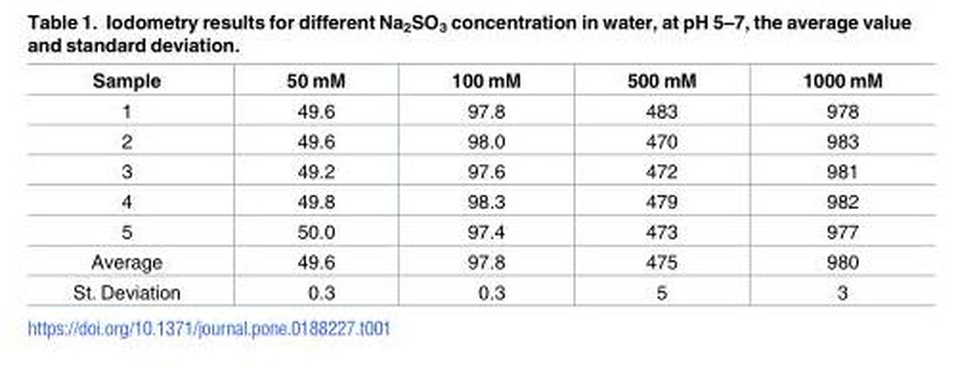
<table><thead><tr><td>Sample</td><td>50 mM</td><td>100 mM</td><td>500 mM</td><td>1000 mM</td></tr></thead><tbody><tr><td>1</td><td>49.6</td><td>97.8</td><td>483</td><td>978</td></tr><tr><td>2</td><td>49.6</td><td>98.0</td><td>470</td><td>983</td></tr><tr><td>3</td><td>49.2</td><td>97.6</td><td>472</td><td>981</td></tr><tr><td>4</td><td>49.8</td><td>98.3</td><td>479</td><td>982</td></tr><tr><td>5</td><td>50.0</td><td>97.4</td><td>473</td><td>977</td></tr><tr><td>Average</td><td>49.6</td><td>97.8</td><td>475</td><td>980</td></tr><tr><td>St. Deviation</td><td>0.3</td><td>0.3</td><td>5</td><td>3</td></tr></tbody></table>